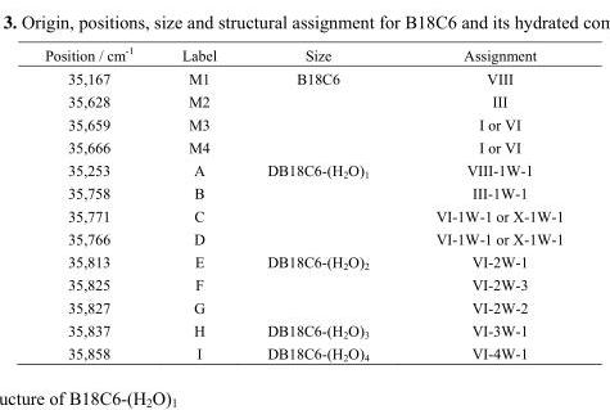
<table><thead><tr><td>Position / cm<sup>-1</sup></td><td>Label</td><td>Size</td><td>Assignment</td></tr></thead><tbody><tr><td>35,167</td><td>M1</td><td>B18C6</td><td>VIII</td></tr><tr><td>35,628</td><td>M2</td><td></td><td>III</td></tr><tr><td>35,659</td><td>M3</td><td></td><td>I or VI</td></tr><tr><td>35,666</td><td>M4</td><td></td><td>I or VI</td></tr><tr><td>35,253</td><td>A</td><td>DB18C6-(H<sub>2</sub>O)<sub>1</sub></td><td>VIII-1W-1</td></tr><tr><td>35,758</td><td>B</td><td></td><td>III-1W-1</td></tr><tr><td>35,771</td><td>C</td><td></td><td>VI-1W-1 or X-1W-1</td></tr><tr><td>35,766</td><td>D</td><td></td><td>VI-1W-1 or X-1W-1</td></tr><tr><td>35,813</td><td>E</td><td>DB18C6-(H<sub>2</sub>O)<sub>2</sub></td><td>VI-2W-1</td></tr><tr><td>35,825</td><td>F</td><td></td><td>VI-2W-3</td></tr><tr><td>35,827</td><td>G</td><td></td><td>VI-2W-2</td></tr><tr><td>35,837</td><td>H</td><td>DB18C6-(H<sub>2</sub>O)<sub>3</sub></td><td>VI-3W-1</td></tr><tr><td>35,858</td><td>I</td><td>DB18C6-(H<sub>2</sub>O)<sub>4</sub></td><td>VI-4W-1</td></tr></tbody></table>